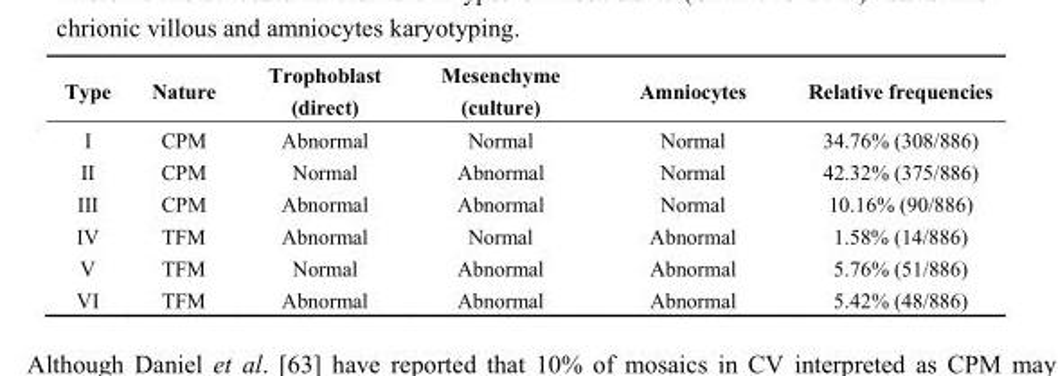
<table><thead><tr><td rowspan="2">Type</td><td rowspan="2">Nature</td><td rowspan="2">Trophoblast (direct)</td><td rowspan="2">Mesenchyme (culture)</td><td rowspan="2">Amniocytes</td><td rowspan="2">Relative frequencies</td></tr><tr></tr></thead><tbody><tr><td>I</td><td>CPM</td><td>Abnormal</td><td>Normal</td><td>Normal</td><td>34.76% (308/886)</td></tr><tr><td>II</td><td>CPM</td><td>Normal</td><td>Abnormal</td><td>Normal</td><td>42.32% (375/886)</td></tr><tr><td>III</td><td>CPM</td><td>Abnormal</td><td>Abnormal</td><td>Normal</td><td>10.16% (90/886)</td></tr><tr><td>IV</td><td>TFM</td><td>Abnormal</td><td>Normal</td><td>Abnormal</td><td>1.58% (14/886)</td></tr><tr><td>V</td><td>TFM</td><td>Normal</td><td>Abnormal</td><td>Abnormal</td><td>5.76% (51/886)</td></tr><tr><td>VI</td><td>TFM</td><td>Abnormal</td><td>Abnormal</td><td>Abnormal</td><td>5.42% (48/886)</td></tr></tbody></table>